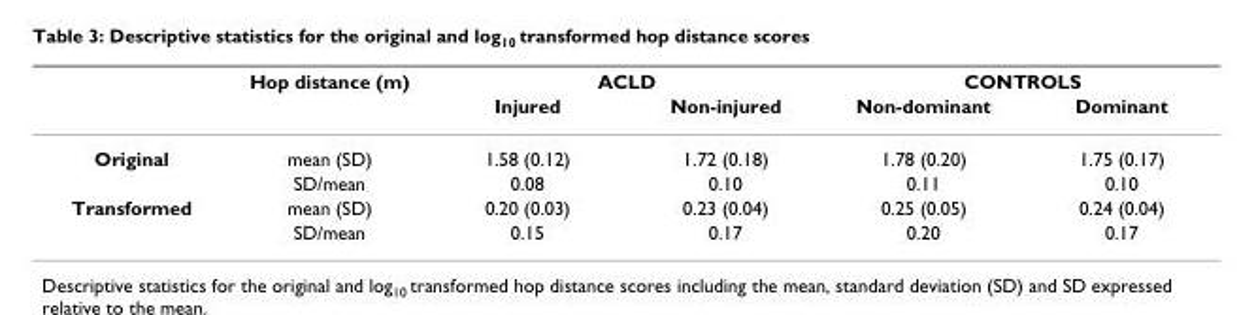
<table><thead><tr><td rowspan="2"></td><td rowspan="2">Hop distance (m)</td><td colspan="2">ACLD</td><td colspan="2">CONTROLS</td></tr><tr><td>Injured</td><td>Non-injured</td><td>Non-dominant</td><td>Dominant</td></tr></thead><tbody><tr><td rowspan="2">Original</td><td>mean (SD)</td><td>1.58 (0.12)</td><td>1.72 (0.18)</td><td>1.78 (0.20)</td><td>1.75 (0.17)</td></tr><tr><td>SD/mean</td><td>0.08</td><td>0.10</td><td>0.11</td><td>0.10</td></tr><tr><td rowspan="2">Transformed</td><td>mean (SD)</td><td>0.20 (0.03)</td><td>0.23 (0.04)</td><td>0.25 (0.05)</td><td>0.24 (0.04)</td></tr><tr><td>SD/mean</td><td>0.15</td><td>0.17</td><td>0.20</td><td>0.17</td></tr></tbody></table>